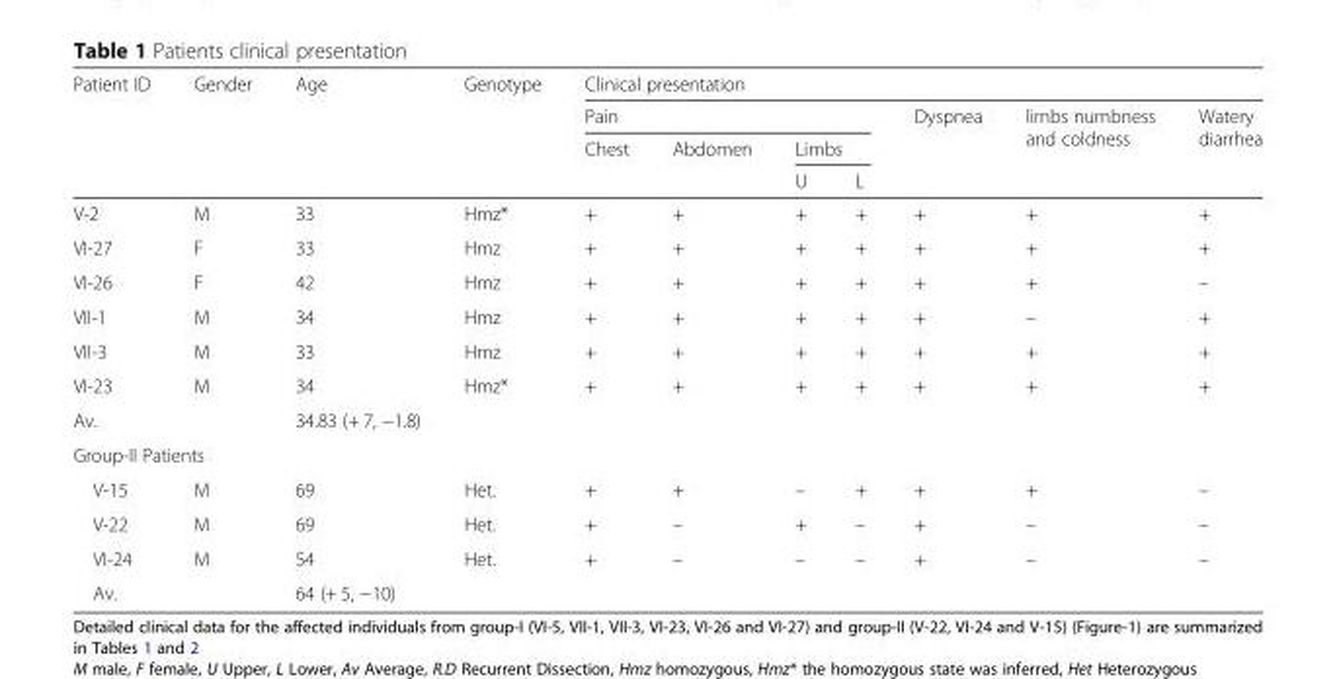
<table><thead><tr><td rowspan="4">Patient ID</td><td rowspan="4">Gender</td><td rowspan="4">Age</td><td rowspan="4">Genotype</td><td colspan="7">Clinical presentation</td></tr><tr><td colspan="4">Pain</td><td rowspan="3">Dyspnea</td><td rowspan="3">limbs numbness and coldness</td><td rowspan="3">Watery diarrhea</td></tr><tr><td rowspan="2">Chest</td><td rowspan="2">Abdomen</td><td colspan="2">Limbs</td></tr><tr><td>U</td><td>L</td></tr></thead><tbody><tr><td>V-2</td><td>M</td><td>33</td><td>Hmz*</td><td>+</td><td>+</td><td>+</td><td>+</td><td>+</td><td>+</td><td>+</td></tr><tr><td>VI-27</td><td>F</td><td>33</td><td>Hmz</td><td>+</td><td>+</td><td>+</td><td>+</td><td>+</td><td>+</td><td>+</td></tr><tr><td>VI-26</td><td>F</td><td>42</td><td>Hmz</td><td>+</td><td>+</td><td>+</td><td>+</td><td>+</td><td>+</td><td>–</td></tr><tr><td>VII-1</td><td>M</td><td>34</td><td>Hmz</td><td>+</td><td>+</td><td>+</td><td>+</td><td>+</td><td>–</td><td>+</td></tr><tr><td>VII-3</td><td>M</td><td>33</td><td>Hmz</td><td>+</td><td>+</td><td>+</td><td>+</td><td>+</td><td>+</td><td>+</td></tr><tr><td>VI-23</td><td>M</td><td>34</td><td>Hmz*</td><td>+</td><td>+</td><td>+</td><td>+</td><td>+</td><td>+</td><td>+</td></tr><tr><td>Av.</td><td></td><td>34.83 (+ 7, −1.8)</td><td></td><td></td><td></td><td></td><td></td><td></td><td></td><td></td></tr><tr><td colspan="11">Group-II Patients</td></tr><tr><td>V-15</td><td>M</td><td>69</td><td>Het.</td><td>+</td><td>+</td><td>–</td><td>+</td><td>+</td><td>+</td><td>–</td></tr><tr><td>V-22</td><td>M</td><td>69</td><td>Het.</td><td>+</td><td>–</td><td>+</td><td>–</td><td>+</td><td>–</td><td>–</td></tr><tr><td>VI-24</td><td>M</td><td>54</td><td>Het.</td><td>+</td><td>–</td><td>–</td><td>–</td><td>+</td><td>–</td><td>–</td></tr><tr><td>Av.</td><td></td><td>64 (+ 5, −10)</td><td></td><td></td><td></td><td></td><td></td><td></td><td></td><td></td></tr></tbody></table>